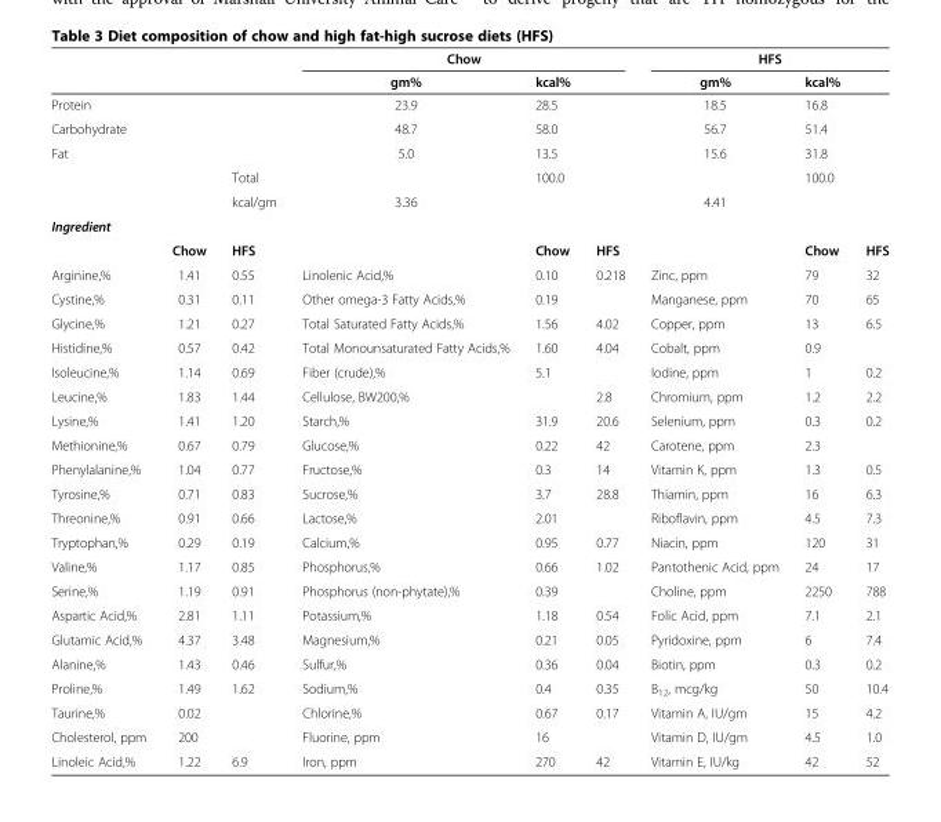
<table><thead><tr><td rowspan="2"></td><td rowspan="2"></td><td rowspan="2"></td><td colspan="3">Chow</td><td colspan="3">HFS</td></tr><tr><td>gm%</td><td>kcal%</td><td></td><td>gm%</td><td>kcal%</td><td></td></tr></thead><tbody><tr><td>Protein</td><td></td><td></td><td>23.9</td><td>28.5</td><td></td><td>18.5</td><td>16.8</td><td></td></tr><tr><td>Carbohydrate</td><td></td><td></td><td>48.7</td><td>58.0</td><td></td><td>56.7</td><td>51.4</td><td></td></tr><tr><td rowspan="3">Fat</td><td></td><td></td><td>5.0</td><td>13.5</td><td></td><td>15.6</td><td>31.8</td><td></td></tr><tr><td></td><td>Total</td><td></td><td>100.0</td><td></td><td></td><td>100.0</td><td></td></tr><tr><td></td><td>kcal/gm</td><td>3.36</td><td></td><td></td><td>4.41</td><td></td><td></td></tr><tr><td colspan="9">Ingredient</td></tr><tr><td></td><td>Chow</td><td>HFS</td><td></td><td>Chow</td><td>HFS</td><td></td><td>Chow</td><td>HFS</td></tr><tr><td>Arginine,%</td><td>1.41</td><td>0.55</td><td>Linolenic Acid,%</td><td>0.10</td><td>0.218</td><td>Zinc, ppm</td><td>79</td><td>32</td></tr><tr><td>Cystine,%</td><td>0.31</td><td>0.11</td><td>Other omega-3 Fatty Acids,%</td><td>0.19</td><td></td><td>Manganese, ppm</td><td>70</td><td>65</td></tr><tr><td>Glycine,%</td><td>1.21</td><td>0.27</td><td>Total Saturated Fatty Acids,%</td><td>1.56</td><td>4.02</td><td>Copper, ppm</td><td>13</td><td>6.5</td></tr><tr><td>Histidine,%</td><td>0.57</td><td>0.42</td><td>Total Monounsaturated Fatty Acids,%</td><td>1.60</td><td>4.04</td><td>Cobalt, ppm</td><td>0.9</td><td></td></tr><tr><td>Isoleucine,%</td><td>1.14</td><td>0.69</td><td>Fiber (crude),%</td><td>5.1</td><td></td><td>Iodine, ppm</td><td>1</td><td>0.2</td></tr><tr><td>Leucine,%</td><td>1.83</td><td>1.44</td><td>Cellulose, BW200,%</td><td></td><td>2.8</td><td>Chromium, ppm</td><td>1.2</td><td>2.2</td></tr><tr><td>Lysine,%</td><td>1.41</td><td>1.20</td><td>Starch,%</td><td>31.9</td><td>20.6</td><td>Selenium, ppm</td><td>0.3</td><td>0.2</td></tr><tr><td>Methionine,%</td><td>0.67</td><td>0.79</td><td>Glucose,%</td><td>0.22</td><td>42</td><td>Carotene, ppm</td><td>2.3</td><td></td></tr><tr><td>Phenylalanine,%</td><td>1.04</td><td>0.77</td><td>Fructose,%</td><td>0.3</td><td>14</td><td>Vitamin K, ppm</td><td>1.3</td><td>0.5</td></tr><tr><td>Tyrosine,%</td><td>0.71</td><td>0.83</td><td>Sucrose,%</td><td>3.7</td><td>28.8</td><td>Thiamin, ppm</td><td>16</td><td>6.3</td></tr><tr><td>Threonine,%</td><td>0.91</td><td>0.66</td><td>Lactose,%</td><td>2.01</td><td></td><td>Riboflavin, ppm</td><td>4.5</td><td>7.3</td></tr><tr><td>Tryptophan,%</td><td>0.29</td><td>0.19</td><td>Calcium,%</td><td>0.95</td><td>0.77</td><td>Niacin, ppm</td><td>120</td><td>31</td></tr><tr><td>Valine,%</td><td>1.17</td><td>0.85</td><td>Phosphorus,%</td><td>0.66</td><td>1.02</td><td>Pantothenic Acid, ppm</td><td>24</td><td>17</td></tr><tr><td>Serine,%</td><td>1.19</td><td>0.91</td><td>Phosphorus (non-phytate),%</td><td>0.39</td><td></td><td>Choline, ppm</td><td>2250</td><td>788</td></tr><tr><td>Aspartic Acid,%</td><td>2.81</td><td>1.11</td><td>Potassium,%</td><td>1.18</td><td>0.54</td><td>Folic Acid, ppm</td><td>7.1</td><td>2.1</td></tr><tr><td>Glutamic Acid,%</td><td>4.37</td><td>3.48</td><td>Magnesium,%</td><td>0.21</td><td>0.05</td><td>Pyridoxine, ppm</td><td>6</td><td>7.4</td></tr><tr><td>Alanine,%</td><td>1.43</td><td>0.46</td><td>Sulfur,%</td><td>0.36</td><td>0.04</td><td>Biotin, ppm</td><td>0.3</td><td>0.2</td></tr><tr><td>Proline,%</td><td>1.49</td><td>1.62</td><td>Sodium,%</td><td>0.4</td><td>0.35</td><td>B<sub>12</sub>, mcg/kg</td><td>50</td><td>10.4</td></tr><tr><td>Taurine,%</td><td>0.02</td><td></td><td>Chlorine,%</td><td>0.67</td><td>0.17</td><td>Vitamin A, IU/gm</td><td>15</td><td>4.2</td></tr><tr><td>Cholesterol, ppm</td><td>200</td><td></td><td>Fluorine, ppm</td><td>16</td><td></td><td>Vitamin D, IU/gm</td><td>4.5</td><td>1.0</td></tr><tr><td>Linoleic Acid,%</td><td>1.22</td><td>6.9</td><td>Iron, ppm</td><td>270</td><td>42</td><td>Vitamin E, IU/kg</td><td>42</td><td>52</td></tr></tbody></table>